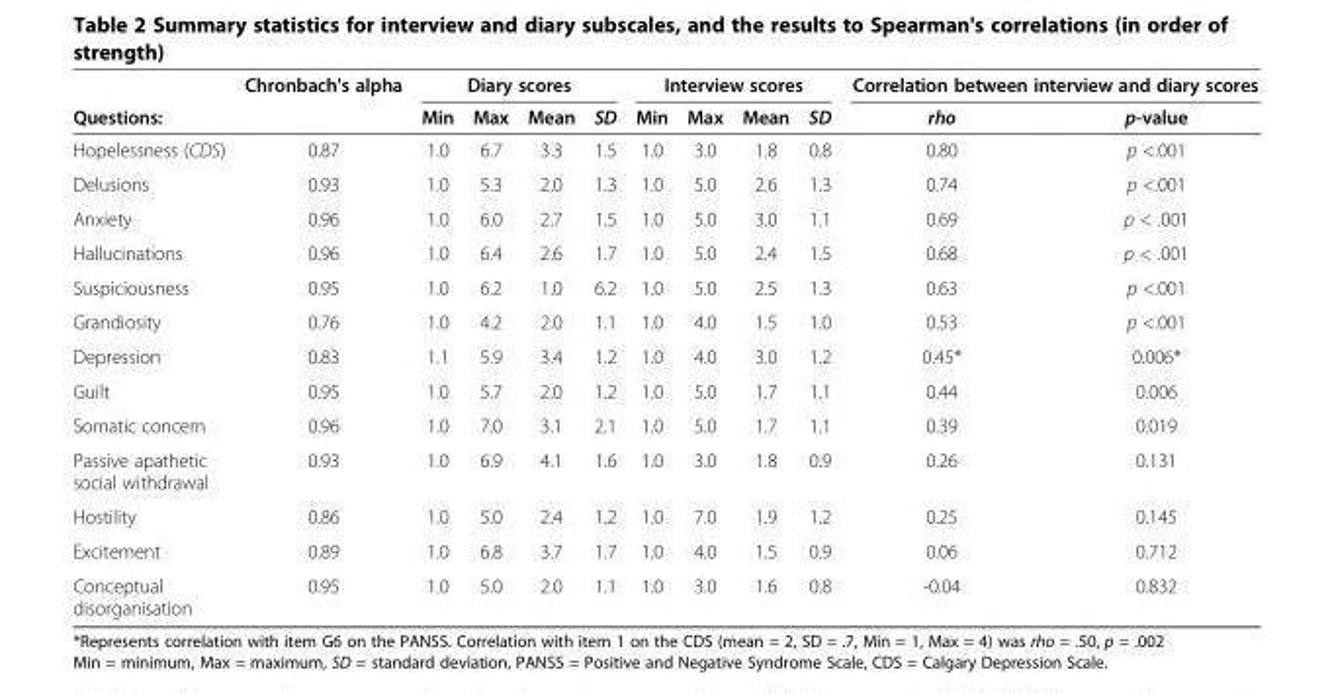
<table><thead><tr><td rowspan="2">Questions:</td><td rowspan="2">Chronbach&#x27;s alpha</td><td colspan="4">Diary scores</td><td colspan="4">Interview scores</td><td colspan="2">Correlation between interview and diary scores</td></tr><tr><td>Min</td><td>Max</td><td>Mean</td><td>SD</td><td>Min</td><td>Max</td><td>Mean</td><td>SD</td><td>rho</td><td>p-value</td></tr></thead><tbody><tr><td>Hopelessness (CDS)</td><td>0.87</td><td>1.0</td><td>6.7</td><td>3.3</td><td>1.5</td><td>1.0</td><td>3.0</td><td>1.8</td><td>0.8</td><td>0.80</td><td>p &lt;.001</td></tr><tr><td>Delusions</td><td>0.93</td><td>1.0</td><td>5.3</td><td>2.0</td><td>1.3</td><td>1.0</td><td>5.0</td><td>2.6</td><td>1.3</td><td>0.74</td><td>p &lt;.001</td></tr><tr><td>Anxiety</td><td>0.96</td><td>1.0</td><td>6.0</td><td>2.7</td><td>1.5</td><td>1.0</td><td>5.0</td><td>3.0</td><td>1.1</td><td>0.69</td><td>p &lt; .001</td></tr><tr><td>Hallucinations</td><td>0.96</td><td>1.0</td><td>6.4</td><td>2.6</td><td>1.7</td><td>1.0</td><td>5.0</td><td>2.4</td><td>1.5</td><td>0.68</td><td>p &lt; .001</td></tr><tr><td>Suspiciousness</td><td>0.95</td><td>1.0</td><td>6.2</td><td>1.0</td><td>6.2</td><td>1.0</td><td>5.0</td><td>2.5</td><td>1.3</td><td>0.63</td><td>p &lt;.001</td></tr><tr><td>Grandiosity</td><td>0.76</td><td>1.0</td><td>4.2</td><td>2.0</td><td>1.1</td><td>1.0</td><td>4.0</td><td>1.5</td><td>1.0</td><td>0.53</td><td>p &lt;.001</td></tr><tr><td>Depression</td><td>0.83</td><td>1.1</td><td>5.9</td><td>3.4</td><td>1.2</td><td>1.0</td><td>4.0</td><td>3.0</td><td>1.2</td><td>0.45*</td><td>0.006*</td></tr><tr><td>Guilt</td><td>0.95</td><td>1.0</td><td>5.7</td><td>2.0</td><td>1.2</td><td>1.0</td><td>5.0</td><td>1.7</td><td>1.1</td><td>0.44</td><td>0.006</td></tr><tr><td>Somatic concern</td><td>0.96</td><td>1.0</td><td>7.0</td><td>3.1</td><td>2.1</td><td>1.0</td><td>5.0</td><td>1.7</td><td>1.1</td><td>0.39</td><td>0.019</td></tr><tr><td>Passive apathetic social withdrawal</td><td>0.93</td><td>1.0</td><td>6.9</td><td>4.1</td><td>1.6</td><td>1.0</td><td>3.0</td><td>1.8</td><td>0.9</td><td>0.26</td><td>0.131</td></tr><tr><td>Hostility</td><td>0.86</td><td>1.0</td><td>5.0</td><td>2.4</td><td>1.2</td><td>1.0</td><td>7.0</td><td>1.9</td><td>1.2</td><td>0.25</td><td>0.145</td></tr><tr><td>Excitement</td><td>0.89</td><td>1.0</td><td>6.8</td><td>3.7</td><td>1.7</td><td>1.0</td><td>4.0</td><td>1.5</td><td>0.9</td><td>0.06</td><td>0.712</td></tr><tr><td>Conceptual disorganisation</td><td>0.95</td><td>1.0</td><td>5.0</td><td>2.0</td><td>1.1</td><td>1.0</td><td>3.0</td><td>1.6</td><td>0.8</td><td>-0.04</td><td>0.832</td></tr></tbody></table>